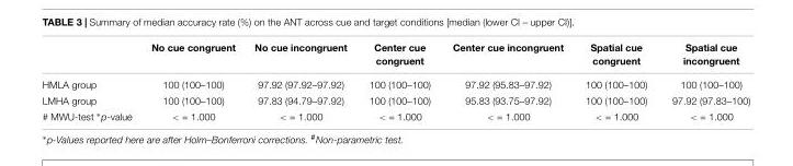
<table><thead><tr><td></td><td>No cue congruent</td><td>No cue incongruent</td><td>Center cue congruent</td><td>Center cue incongruent</td><td>Spatial cue congruent</td><td>Spatial cue incongruent</td></tr></thead><tbody><tr><td>HMLA group</td><td>100 (100–100)</td><td>97.92 (97.92–97.92)</td><td>100 (100–100)</td><td>97.92 (95.83–97.92)</td><td>100 (100–100)</td><td>100 (100–100)</td></tr><tr><td>LMHA group</td><td>100 (100–100)</td><td>97.83 (94.79–97.92)</td><td>100 (100–100)</td><td>95.83 (93.75–97.92)</td><td>100 (100–100)</td><td>97.92 (97.83–100)</td></tr><tr><td># MWU-test ∗p-value</td><td>&lt; = 1.000</td><td>&lt; = 1.000</td><td>&lt; = 1.000</td><td>&lt; = 1.000</td><td>&lt; = 1.000</td><td>&lt; = 1.000</td></tr></tbody></table>